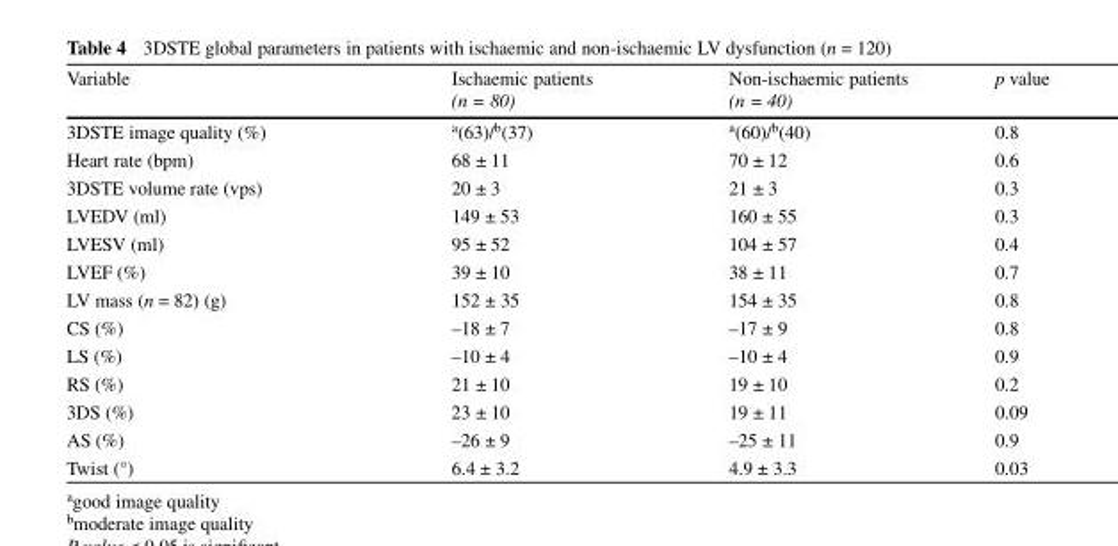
<table><thead><tr><td>Variable</td><td>Ischaemic patients (n = 80)</td><td>Non-ischaemic patients (n = 40)</td><td>p value</td></tr></thead><tbody><tr><td>3DSTE image quality (%)</td><td><sup>a</sup>(63)/<sup>b</sup>(37)</td><td><sup>a</sup>(60)/<sup>b</sup>(40)</td><td>0.8</td></tr><tr><td>Heart rate (bpm)</td><td>68 ± 11</td><td>70 ± 12</td><td>0.6</td></tr><tr><td>3DSTE volume rate (vps)</td><td>20 ± 3</td><td>21 ± 3</td><td>0.3</td></tr><tr><td>LVEDV (ml)</td><td>149 ± 53</td><td>160 ± 55</td><td>0.3</td></tr><tr><td>LVESV (ml)</td><td>95 ± 52</td><td>104 ± 57</td><td>0.4</td></tr><tr><td>LVEF (%)</td><td>39 ± 10</td><td>38 ± 11</td><td>0.7</td></tr><tr><td>LV mass (n = 82) (g)</td><td>152 ± 35</td><td>154 ± 35</td><td>0.8</td></tr><tr><td>CS (%)</td><td>–18 ± 7</td><td>–17 ± 9</td><td>0.8</td></tr><tr><td>LS (%)</td><td>–10 ± 4</td><td>–10 ± 4</td><td>0.9</td></tr><tr><td>RS (%)</td><td>21 ± 10</td><td>19 ± 10</td><td>0.2</td></tr><tr><td>3DS (%)</td><td>23 ± 10</td><td>19 ± 11</td><td>0.09</td></tr><tr><td>AS (%)</td><td>–26 ± 9</td><td>–25 ± 11</td><td>0.9</td></tr><tr><td>Twist (°)</td><td>6.4 ± 3.2</td><td>4.9 ± 3.3</td><td>0.03</td></tr></tbody></table>